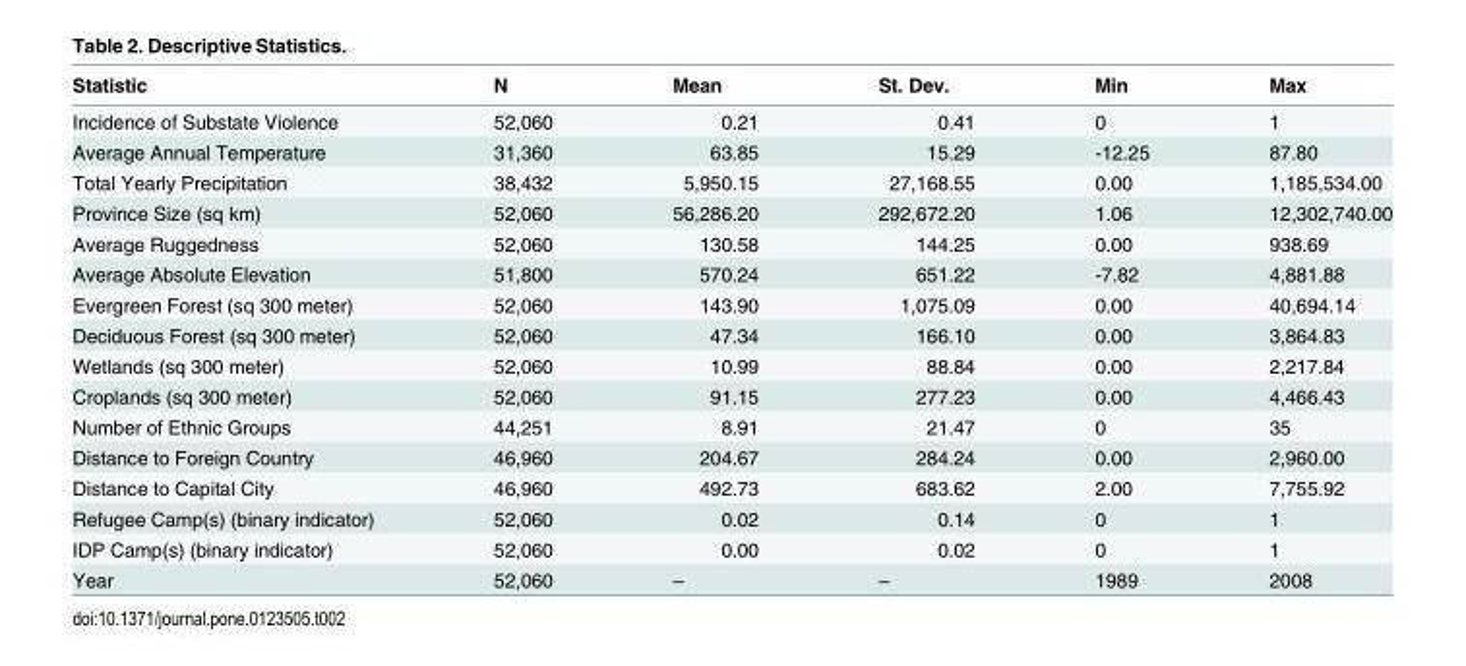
<table><thead><tr><td>Statistic</td><td>N</td><td>Mean</td><td>St. Dev.</td><td>Min</td><td>Max</td></tr></thead><tbody><tr><td>Incidence of Substate Violence</td><td>52,060</td><td>0.21</td><td>0.41</td><td>0</td><td>1</td></tr><tr><td>Average Annual Temperature</td><td>31,360</td><td>63.85</td><td>15.29</td><td>-12.25</td><td>87.80</td></tr><tr><td>Total Yearly Precipitation</td><td>38,432</td><td>5,950.15</td><td>27,168.55</td><td>0.00</td><td>1,185,534.00</td></tr><tr><td>Province Size (sq km)</td><td>52,060</td><td>56,286.20</td><td>292,672.20</td><td>1.06</td><td>12,302,740.00</td></tr><tr><td>Average Ruggedness</td><td>52,060</td><td>130.58</td><td>144.25</td><td>0.00</td><td>938.69</td></tr><tr><td>Average Absolute Elevation</td><td>51,800</td><td>570.24</td><td>651.22</td><td>-7.82</td><td>4,881.88</td></tr><tr><td>Evergreen Forest (sq 300 meter)</td><td>52,060</td><td>143.90</td><td>1,075.09</td><td>0.00</td><td>40,694.14</td></tr><tr><td>Deciduous Forest (sq 300 meter)</td><td>52,060</td><td>47.34</td><td>166.10</td><td>0.00</td><td>3,864.83</td></tr><tr><td>Wetlands (sq 300 meter)</td><td>52,060</td><td>10.99</td><td>88.84</td><td>0.00</td><td>2,217.84</td></tr><tr><td>Croplands (sq 300 meter)</td><td>52,060</td><td>91.15</td><td>277.23</td><td>0.00</td><td>4,466.43</td></tr><tr><td>Number of Ethnic Groups</td><td>44,251</td><td>8.91</td><td>21.47</td><td>0</td><td>35</td></tr><tr><td>Distance to Foreign Country</td><td>46,960</td><td>204.67</td><td>284.24</td><td>0.00</td><td>2,960.00</td></tr><tr><td>Distance to Capital City</td><td>46,960</td><td>492.73</td><td>683.62</td><td>2.00</td><td>7,755.92</td></tr><tr><td>Refugee Camp(s) (binary indicator)</td><td>52,060</td><td>0.02</td><td>0.14</td><td>0</td><td>1</td></tr><tr><td>IDP Camp(s) (binary indicator)</td><td>52,060</td><td>0.00</td><td>0.02</td><td>0</td><td>1</td></tr><tr><td>Year</td><td>52,060</td><td>–</td><td>–</td><td>1989</td><td>2008</td></tr></tbody></table>